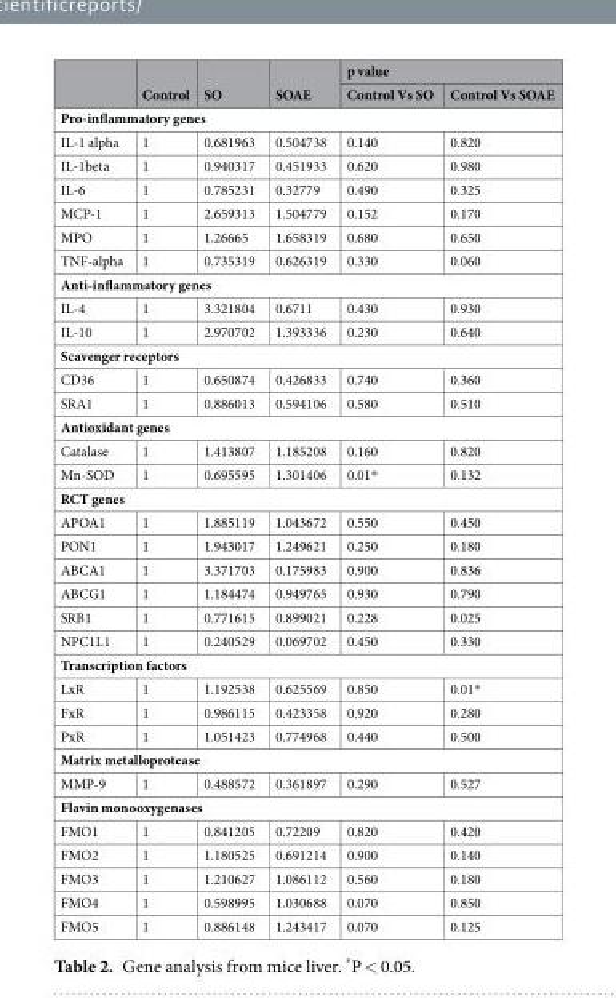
<table><thead><tr><td rowspan="2"></td><td rowspan="2">Control</td><td rowspan="2">SO</td><td rowspan="2">SOAE</td><td colspan="2">p value</td></tr><tr><td>Control Vs SO</td><td>Control Vs SOAE</td></tr></thead><tbody><tr><td colspan="6">Pro-inflammatory genes</td></tr><tr><td>IL-1 alpha</td><td>1</td><td>0.681963</td><td>0.504738</td><td>0.140</td><td>0.820</td></tr><tr><td>IL-1beta</td><td>1</td><td>0.940317</td><td>0.451933</td><td>0.620</td><td>0.980</td></tr><tr><td>IL-6</td><td>1</td><td>0.785231</td><td>0.32779</td><td>0.490</td><td>0.325</td></tr><tr><td>MCP-1</td><td>1</td><td>2.659313</td><td>1.504779</td><td>0.152</td><td>0.170</td></tr><tr><td>MPO</td><td>1</td><td>1.26665</td><td>1.658319</td><td>0.680</td><td>0.650</td></tr><tr><td>TNF-alpha</td><td>1</td><td>0.735319</td><td>0.626319</td><td>0.330</td><td>0.060</td></tr><tr><td colspan="6">Anti-inflammatory genes</td></tr><tr><td>IL-4</td><td>1</td><td>3.321804</td><td>0.6711</td><td>0.430</td><td>0.930</td></tr><tr><td>IL-10</td><td>1</td><td>2.970702</td><td>1.393336</td><td>0.230</td><td>0.640</td></tr><tr><td colspan="6">Scavenger receptors</td></tr><tr><td>CD36</td><td>1</td><td>0.650874</td><td>0.426833</td><td>0.740</td><td>0.360</td></tr><tr><td>SRA1</td><td>1</td><td>0.886013</td><td>0.594106</td><td>0.580</td><td>0.510</td></tr><tr><td colspan="6">Antioxidant genes</td></tr><tr><td>Catalase</td><td>1</td><td>1.413807</td><td>1.185208</td><td>0.160</td><td>0.820</td></tr><tr><td>Mn-SOD</td><td>1</td><td>0.695595</td><td>1.301406</td><td>0.01*</td><td>0.132</td></tr><tr><td colspan="6">RCT genes</td></tr><tr><td>APOA1</td><td>1</td><td>1.885119</td><td>1.043672</td><td>0.550</td><td>0.450</td></tr><tr><td>PON1</td><td>1</td><td>1.943017</td><td>1.249621</td><td>0.250</td><td>0.180</td></tr><tr><td>ABCA1</td><td>1</td><td>3.371703</td><td>0.175983</td><td>0.900</td><td>0.836</td></tr><tr><td>ABCG1</td><td>1</td><td>1.184474</td><td>0.949765</td><td>0.930</td><td>0.790</td></tr><tr><td>SRB1</td><td>1</td><td>0.771615</td><td>0.899021</td><td>0.228</td><td>0.025</td></tr><tr><td>NPC1L1</td><td>1</td><td>0.240529</td><td>0.069702</td><td>0.450</td><td>0.330</td></tr><tr><td colspan="6">Transcription factors</td></tr><tr><td>LxR</td><td>1</td><td>1.192538</td><td>0.625569</td><td>0.850</td><td>0.01*</td></tr><tr><td>FxR</td><td>1</td><td>0.986115</td><td>0.423358</td><td>0.920</td><td>0.280</td></tr><tr><td>PxR</td><td>1</td><td>1.051423</td><td>0.774968</td><td>0.440</td><td>0.500</td></tr><tr><td colspan="6">Matrix metalloprotease</td></tr><tr><td>MMP-9</td><td>1</td><td>0.488572</td><td>0.361897</td><td>0.290</td><td>0.527</td></tr><tr><td colspan="6">Flavin monooxygenases</td></tr><tr><td>FMO1</td><td>1</td><td>0.841205</td><td>0.72209</td><td>0.820</td><td>0.420</td></tr><tr><td>FMO2</td><td>1</td><td>1.180525</td><td>0.691214</td><td>0.900</td><td>0.140</td></tr><tr><td>FMO3</td><td>1</td><td>1.210627</td><td>1.086112</td><td>0.560</td><td>0.180</td></tr><tr><td>FMO4</td><td>1</td><td>0.598995</td><td>1.030688</td><td>0.070</td><td>0.850</td></tr><tr><td>FMO5</td><td>1</td><td>0.886148</td><td>1.243417</td><td>0.070</td><td>0.125</td></tr></tbody></table>